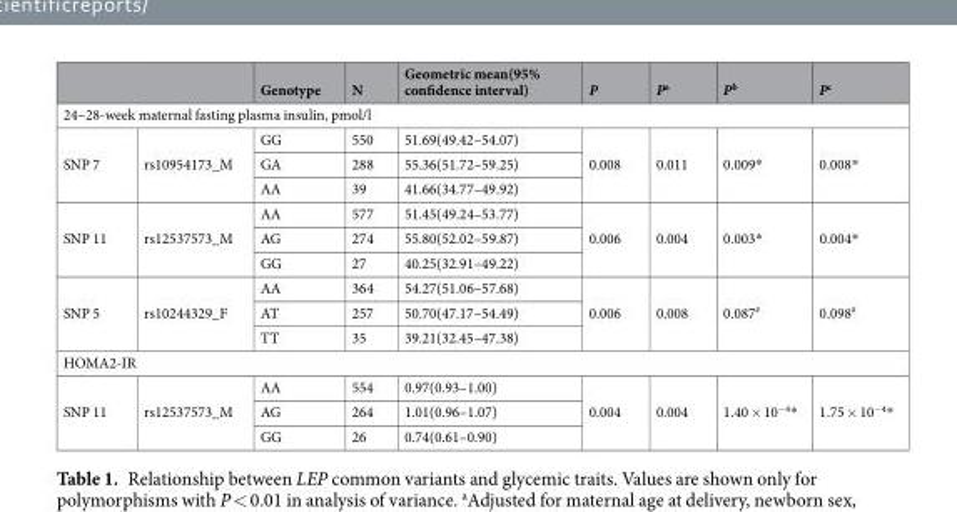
<table><thead><tr><td></td><td></td><td>Genotype</td><td>N</td><td>Geometric mean(95% confidence interval)</td><td>P</td><td>P<sup>a</sup></td><td>P<sup>b</sup></td><td>P<sup>c</sup></td></tr></thead><tbody><tr><td colspan="9">24–28-week maternal fasting plasma insulin, pmol/l</td></tr><tr><td rowspan="3">SNP 7</td><td rowspan="3">rs10954173_M</td><td>GG</td><td>550</td><td>51.69(49.42–54.07)</td><td rowspan="3">0.008</td><td rowspan="3">0.011</td><td rowspan="3">0.009*</td><td rowspan="3">0.008*</td></tr><tr><td>GA</td><td>288</td><td>55.36(51.72–59.25)</td></tr><tr><td>AA</td><td>39</td><td>41.66(34.77–49.92)</td></tr><tr><td rowspan="3">SNP 11</td><td rowspan="3">rs12537573_M</td><td>AA</td><td>577</td><td>51.45(49.24–53.77)</td><td rowspan="3">0.006</td><td rowspan="3">0.004</td><td rowspan="3">0.003*</td><td rowspan="3">0.004*</td></tr><tr><td>AG</td><td>274</td><td>55.80(52.02–59.87)</td></tr><tr><td>GG</td><td>27</td><td>40.25(32.91–49.22)</td></tr><tr><td rowspan="3">SNP 5</td><td rowspan="3">rs10244329_F</td><td>AA</td><td>364</td><td>54.27(51.06–57.68)</td><td rowspan="3">0.006</td><td rowspan="3">0.008</td><td rowspan="3">0.087<sup>#</sup></td><td rowspan="3">0.098<sup>#</sup></td></tr><tr><td>AT</td><td>257</td><td>50.70(47.17–54.49)</td></tr><tr><td>TT</td><td>35</td><td>39.21(32.45–47.38)</td></tr><tr><td colspan="9">HOMA2-IR</td></tr><tr><td rowspan="3">SNP 11</td><td rowspan="3">rs12537573_M</td><td>AA</td><td>554</td><td>0.97(0.93–1.00)</td><td rowspan="3">0.004</td><td rowspan="3">0.004</td><td rowspan="3">1.40 × 10<sup>−4</sup>*</td><td rowspan="3">1.75 × 10<sup>−4</sup>*</td></tr><tr><td>AG</td><td>264</td><td>1.01(0.96–1.07)</td></tr><tr><td>GG</td><td>26</td><td>0.74(0.61–0.90)</td></tr></tbody></table>